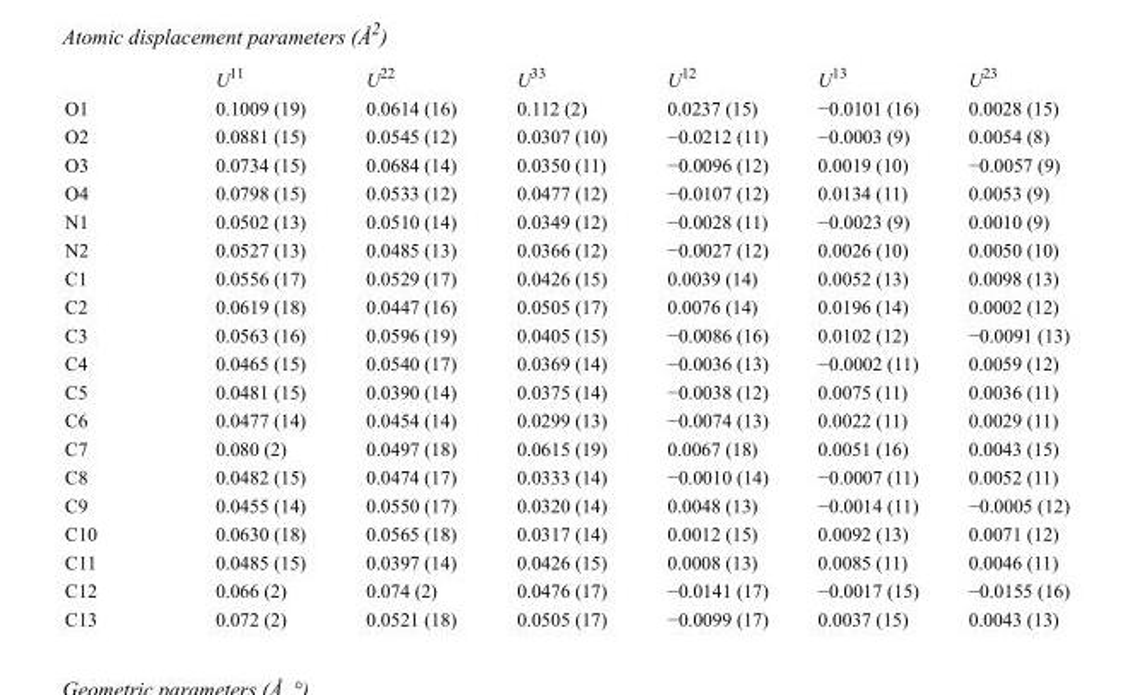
<table><thead><tr><td></td><td>U<sup>11</sup></td><td>U<sup>22</sup></td><td>U<sup>33</sup></td><td>U<sup>12</sup></td><td>U<sup>13</sup></td><td>U<sup>23</sup></td></tr></thead><tbody><tr><td>O1</td><td>0.1009 (19)</td><td>0.0614 (16)</td><td>0.112 (2)</td><td>0.0237 (15)</td><td>−0.0101 (16)</td><td>0.0028 (15)</td></tr><tr><td>O2</td><td>0.0881 (15)</td><td>0.0545 (12)</td><td>0.0307 (10)</td><td>−0.0212 (11)</td><td>−0.0003 (9)</td><td>0.0054 (8)</td></tr><tr><td>O3</td><td>0.0734 (15)</td><td>0.0684 (14)</td><td>0.0350 (11)</td><td>−0.0096 (12)</td><td>0.0019 (10)</td><td>−0.0057 (9)</td></tr><tr><td>O4</td><td>0.0798 (15)</td><td>0.0533 (12)</td><td>0.0477 (12)</td><td>−0.0107 (12)</td><td>0.0134 (11)</td><td>0.0053 (9)</td></tr><tr><td>N1</td><td>0.0502 (13)</td><td>0.0510 (14)</td><td>0.0349 (12)</td><td>−0.0028 (11)</td><td>−0.0023 (9)</td><td>0.0010 (9)</td></tr><tr><td>N2</td><td>0.0527 (13)</td><td>0.0485 (13)</td><td>0.0366 (12)</td><td>−0.0027 (12)</td><td>0.0026 (10)</td><td>0.0050 (10)</td></tr><tr><td>C1</td><td>0.0556 (17)</td><td>0.0529 (17)</td><td>0.0426 (15)</td><td>0.0039 (14)</td><td>0.0052 (13)</td><td>0.0098 (13)</td></tr><tr><td>C2</td><td>0.0619 (18)</td><td>0.0447 (16)</td><td>0.0505 (17)</td><td>0.0076 (14)</td><td>0.0196 (14)</td><td>0.0002 (12)</td></tr><tr><td>C3</td><td>0.0563 (16)</td><td>0.0596 (19)</td><td>0.0405 (15)</td><td>−0.0086 (16)</td><td>0.0102 (12)</td><td>−0.0091 (13)</td></tr><tr><td>C4</td><td>0.0465 (15)</td><td>0.0540 (17)</td><td>0.0369 (14)</td><td>−0.0036 (13)</td><td>−0.0002 (11)</td><td>0.0059 (12)</td></tr><tr><td>C5</td><td>0.0481 (15)</td><td>0.0390 (14)</td><td>0.0375 (14)</td><td>−0.0038 (12)</td><td>0.0075 (11)</td><td>0.0036 (11)</td></tr><tr><td>C6</td><td>0.0477 (14)</td><td>0.0454 (14)</td><td>0.0299 (13)</td><td>−0.0074 (13)</td><td>0.0022 (11)</td><td>0.0029 (11)</td></tr><tr><td>C7</td><td>0.080 (2)</td><td>0.0497 (18)</td><td>0.0615 (19)</td><td>0.0067 (18)</td><td>0.0051 (16)</td><td>0.0043 (15)</td></tr><tr><td>C8</td><td>0.0482 (15)</td><td>0.0474 (17)</td><td>0.0333 (14)</td><td>−0.0010 (14)</td><td>−0.0007 (11)</td><td>0.0052 (11)</td></tr><tr><td>C9</td><td>0.0455 (14)</td><td>0.0550 (17)</td><td>0.0320 (14)</td><td>0.0048 (13)</td><td>−0.0014 (11)</td><td>−0.0005 (12)</td></tr><tr><td>C10</td><td>0.0630 (18)</td><td>0.0565 (18)</td><td>0.0317 (14)</td><td>0.0012 (15)</td><td>0.0092 (13)</td><td>0.0071 (12)</td></tr><tr><td>C11</td><td>0.0485 (15)</td><td>0.0397 (14)</td><td>0.0426 (15)</td><td>0.0008 (13)</td><td>0.0085 (11)</td><td>0.0046 (11)</td></tr><tr><td>C12</td><td>0.066 (2)</td><td>0.074 (2)</td><td>0.0476 (17)</td><td>−0.0141 (17)</td><td>−0.0017 (15)</td><td>−0.0155 (16)</td></tr><tr><td>C13</td><td>0.072 (2)</td><td>0.0521 (18)</td><td>0.0505 (17)</td><td>−0.0099 (17)</td><td>0.0037 (15)</td><td>0.0043 (13)</td></tr></tbody></table>